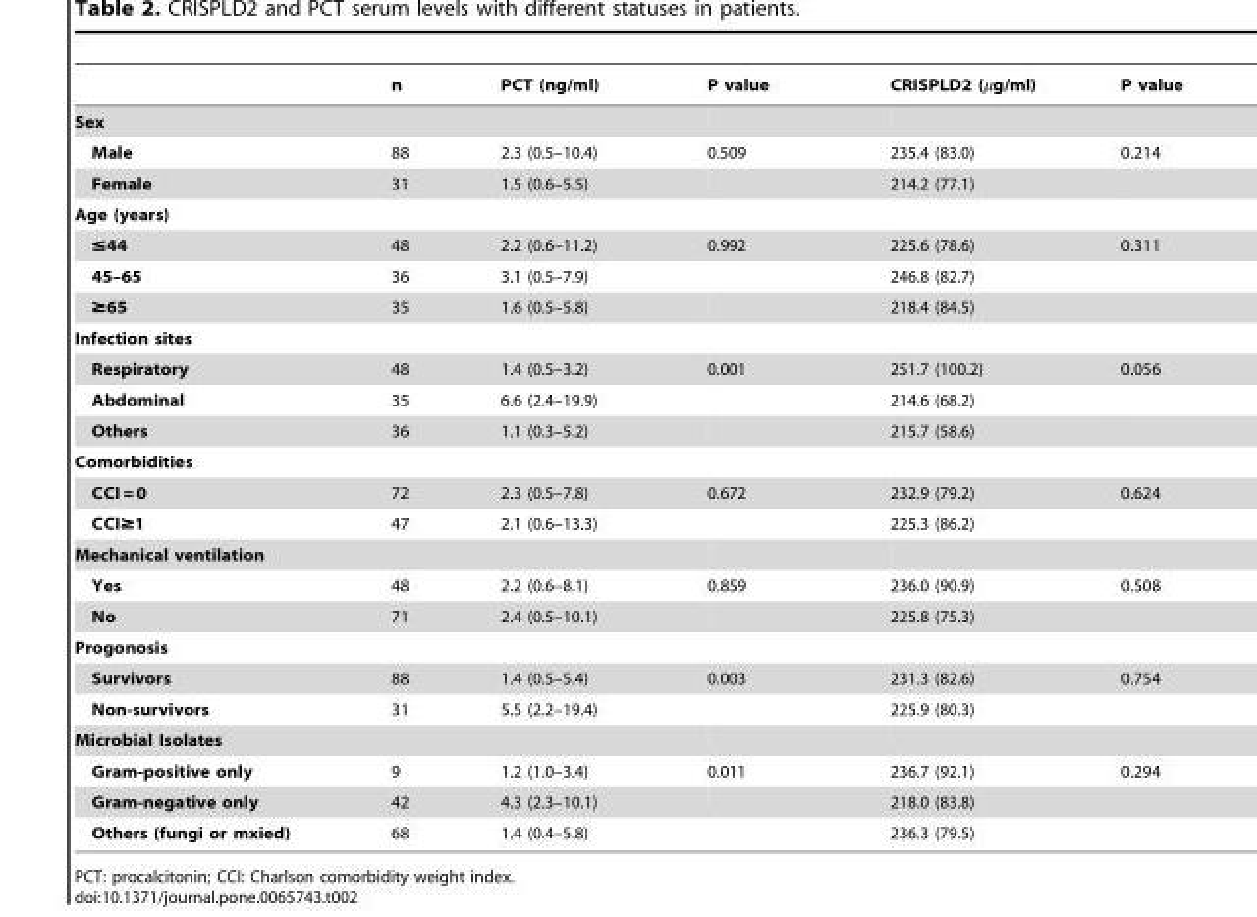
<table><thead><tr><td></td><td>n</td><td>PCT (ng/ml)</td><td>P value</td><td>CRISPLD2 (µg/ml)</td><td>P value</td></tr></thead><tbody><tr><td colspan="6">Sex</td></tr><tr><td>Male</td><td>88</td><td>2.3 (0.5–10.4)</td><td>0.509</td><td>235.4 (83.0)</td><td>0.214</td></tr><tr><td>Female</td><td>31</td><td>1.5 (0.6–5.5)</td><td></td><td>214.2 (77.1)</td><td></td></tr><tr><td colspan="6">Age (years)</td></tr><tr><td>≤44</td><td>48</td><td>2.2 (0.6–11.2)</td><td>0.992</td><td>225.6 (78.6)</td><td>0.311</td></tr><tr><td>45–65</td><td>36</td><td>3.1 (0.5–7.9)</td><td></td><td>246.8 (82.7)</td><td></td></tr><tr><td>≥65</td><td>35</td><td>1.6 (0.5–5.8)</td><td></td><td>218.4 (84.5)</td><td></td></tr><tr><td colspan="6">Infection sites</td></tr><tr><td>Respiratory</td><td>48</td><td>1.4 (0.5–3.2)</td><td>0.001</td><td>251.7 (100.2)</td><td>0.056</td></tr><tr><td>Abdominal</td><td>35</td><td>6.6 (2.4–19.9)</td><td></td><td>214.6 (68.2)</td><td></td></tr><tr><td>Others</td><td>36</td><td>1.1 (0.3–5.2)</td><td></td><td>215.7 (58.6)</td><td></td></tr><tr><td colspan="6">Comorbidities</td></tr><tr><td>CCI = 0</td><td>72</td><td>2.3 (0.5–7.8)</td><td>0.672</td><td>232.9 (79.2)</td><td>0.624</td></tr><tr><td>CCI≥1</td><td>47</td><td>2.1 (0.6–13.3)</td><td></td><td>225.3 (86.2)</td><td></td></tr><tr><td colspan="6">Mechanical ventilation</td></tr><tr><td>Yes</td><td>48</td><td>2.2 (0.6–8.1)</td><td>0.859</td><td>236.0 (90.9)</td><td>0.508</td></tr><tr><td>No</td><td>71</td><td>2.4 (0.5–10.1)</td><td></td><td>225.8 (75.3)</td><td></td></tr><tr><td colspan="6">Progonosis</td></tr><tr><td>Survivors</td><td>88</td><td>1.4 (0.5–5.4)</td><td>0.003</td><td>231.3 (82.6)</td><td>0.754</td></tr><tr><td>Non-survivors</td><td>31</td><td>5.5 (2.2–19.4)</td><td></td><td>225.9 (80.3)</td><td></td></tr><tr><td colspan="6">Microbial Isolates</td></tr><tr><td>Gram-positive only</td><td>9</td><td>1.2 (1.0–3.4)</td><td>0.011</td><td>236.7 (92.1)</td><td>0.294</td></tr><tr><td>Gram-negative only</td><td>42</td><td>4.3 (2.3–10.1)</td><td></td><td>218.0 (83.8)</td><td></td></tr><tr><td>Others (fungi or mxied)</td><td>68</td><td>1.4 (0.4–5.8)</td><td></td><td>236.3 (79.5)</td><td></td></tr></tbody></table>